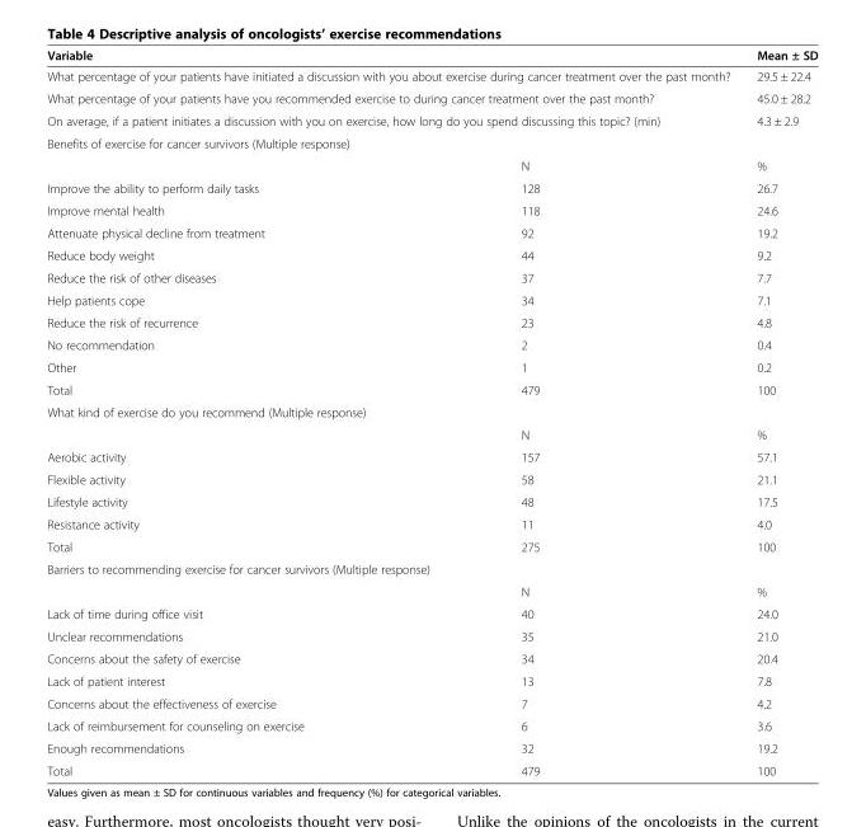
<table><thead><tr><td colspan="2">Variable</td><td>Mean ± SD</td></tr></thead><tbody><tr><td colspan="2">What percentage of your patients have initiated a discussion with you about exercise during cancer treatment over the past month?</td><td>29.5 ± 22.4</td></tr><tr><td colspan="2">What percentage of your patients have you recommended exercise to during cancer treatment over the past month?</td><td>45.0 ± 28.2</td></tr><tr><td colspan="2">On average, if a patient initiates a discussion with you on exercise, how long do you spend discussing this topic? (min)</td><td>4.3 ± 2.9</td></tr><tr><td colspan="3">Benefits of exercise for cancer survivors (Multiple response)</td></tr><tr><td></td><td>N</td><td>%</td></tr><tr><td>Improve the ability to perform daily tasks</td><td>128</td><td>26.7</td></tr><tr><td>Improve mental health</td><td>118</td><td>24.6</td></tr><tr><td>Attenuate physical decline from treatment</td><td>92</td><td>19.2</td></tr><tr><td>Reduce body weight</td><td>44</td><td>9.2</td></tr><tr><td>Reduce the risk of other diseases</td><td>37</td><td>7.7</td></tr><tr><td>Help patients cope</td><td>34</td><td>7.1</td></tr><tr><td>Reduce the risk of recurrence</td><td>23</td><td>4.8</td></tr><tr><td>No recommendation</td><td>2</td><td>0.4</td></tr><tr><td>Other</td><td>1</td><td>0.2</td></tr><tr><td>Total</td><td>479</td><td>100</td></tr><tr><td colspan="3">What kind of exercise do you recommend (Multiple response)</td></tr><tr><td></td><td>N</td><td>%</td></tr><tr><td>Aerobic activity</td><td>157</td><td>57.1</td></tr><tr><td>Flexible activity</td><td>58</td><td>21.1</td></tr><tr><td>Lifestyle activity</td><td>48</td><td>17.5</td></tr><tr><td>Resistance activity</td><td>11</td><td>4.0</td></tr><tr><td>Total</td><td>275</td><td>100</td></tr><tr><td colspan="3">Barriers to recommending exercise for cancer survivors (Multiple response)</td></tr><tr><td></td><td>N</td><td>%</td></tr><tr><td>Lack of time during office visit</td><td>40</td><td>24.0</td></tr><tr><td>Unclear recommendations</td><td>35</td><td>21.0</td></tr><tr><td>Concerns about the safety of exercise</td><td>34</td><td>20.4</td></tr><tr><td>Lack of patient interest</td><td>13</td><td>7.8</td></tr><tr><td>Concerns about the effectiveness of exercise</td><td>7</td><td>4.2</td></tr><tr><td>Lack of reimbursement for counseling on exercise</td><td>6</td><td>3.6</td></tr><tr><td>Enough recommendations</td><td>32</td><td>19.2</td></tr><tr><td>Total</td><td>479</td><td>100</td></tr></tbody></table>